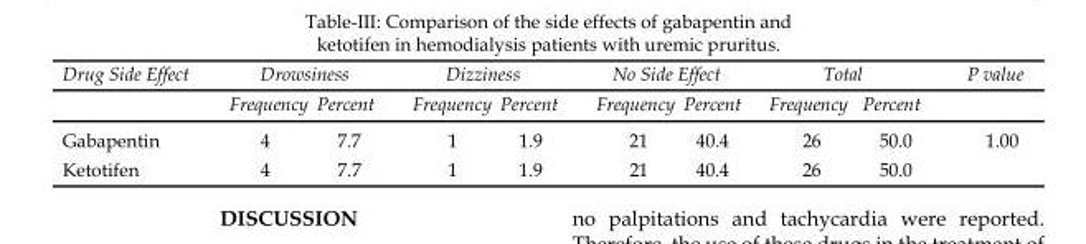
<table><thead><tr><td rowspan="2">Drug Side Effect</td><td colspan="2">Drowsiness</td><td colspan="2">Dizziness</td><td colspan="2">No Side Effect</td><td colspan="2">Total</td><td rowspan="2">P value</td></tr><tr><td>Frequency</td><td>Percent</td><td>Frequency</td><td>Percent</td><td>Frequency</td><td>Percent</td><td>Frequency</td><td>Percent</td></tr></thead><tbody><tr><td>Gabapentin</td><td>4</td><td>7.7</td><td>1</td><td>1.9</td><td>21</td><td>40.4</td><td>26</td><td>50.0</td><td rowspan="2">1.00</td></tr><tr><td>Ketotifen</td><td>4</td><td>7.7</td><td>1</td><td>1.9</td><td>21</td><td>40.4</td><td>26</td><td>50.0</td></tr></tbody></table>